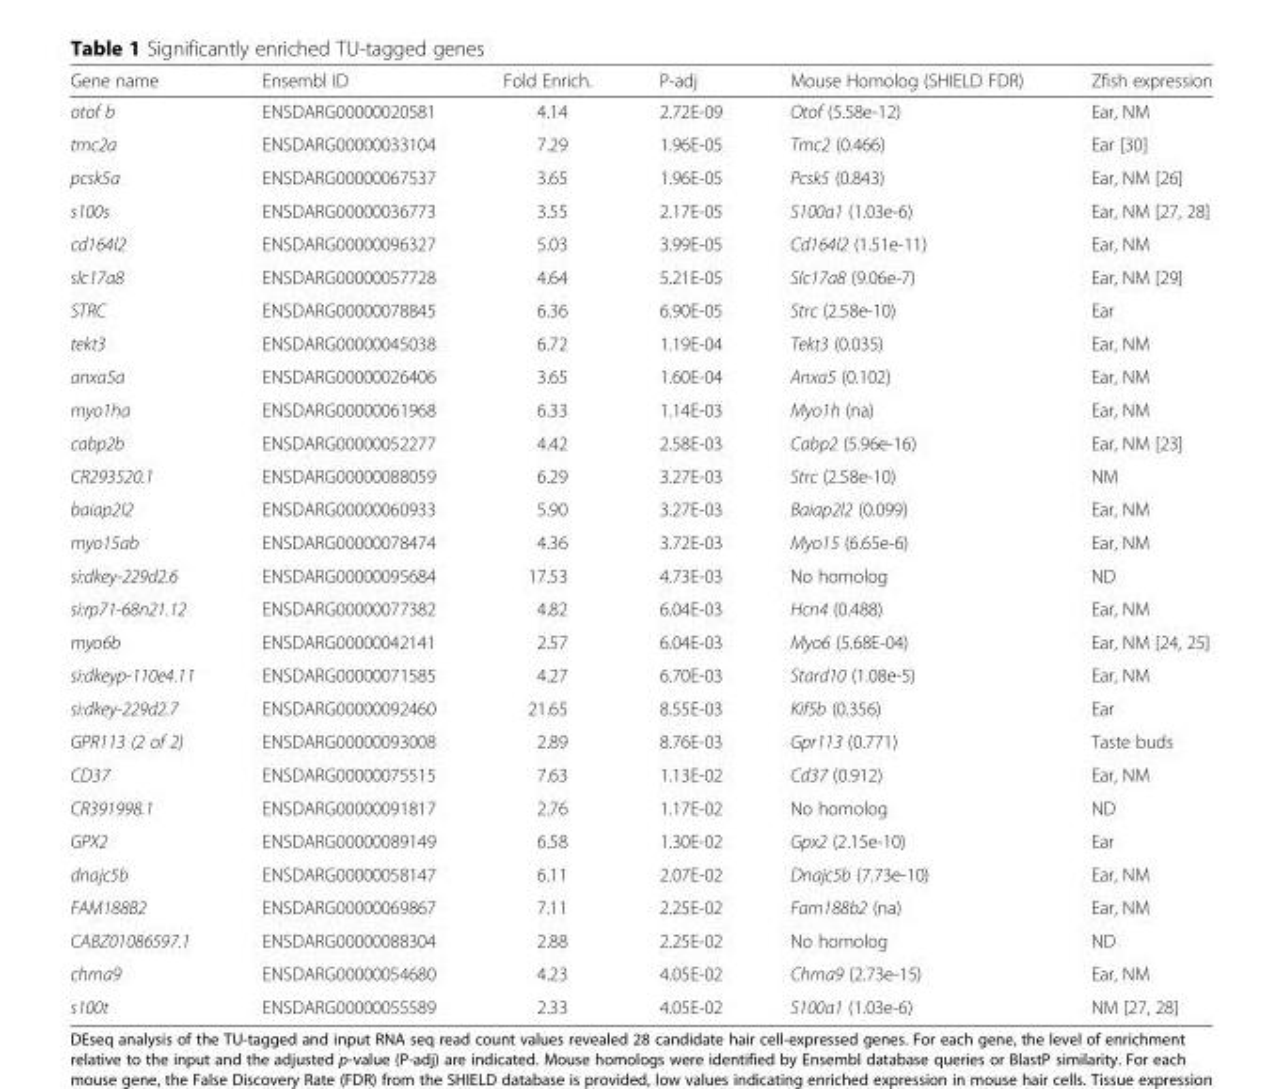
<table><thead><tr><td>Gene name</td><td>Ensembl ID</td><td>Fold Enrich.</td><td>P-adj</td><td>Mouse Homolog (SHIELD FDR)</td><td>Zfish expression</td></tr></thead><tbody><tr><td>otof b</td><td>ENSDARG00000020581</td><td>4.14</td><td>2.72E-09</td><td>Otof (5.58e-12)</td><td>Ear, NM</td></tr><tr><td>tmc2a</td><td>ENSDARG00000033104</td><td>7.29</td><td>1.96E-05</td><td>Tmc2 (0.466)</td><td>Ear [30]</td></tr><tr><td>pcsk5a</td><td>ENSDARG00000067537</td><td>3.65</td><td>1.96E-05</td><td>Pcsk5 (0.843)</td><td>Ear, NM [26]</td></tr><tr><td>s100s</td><td>ENSDARG00000036773</td><td>3.55</td><td>2.17E-05</td><td>S100a1 (1.03e-6)</td><td>Ear, NM [27, 28]</td></tr><tr><td>cd164l2</td><td>ENSDARG00000096327</td><td>5.03</td><td>3.99E-05</td><td>Cd164l2 (1.51e-11)</td><td>Ear, NM</td></tr><tr><td>slc17a8</td><td>ENSDARG00000057728</td><td>4.64</td><td>5.21E-05</td><td>Slc17a8 (9.06e-7)</td><td>Ear, NM [29]</td></tr><tr><td>STRC</td><td>ENSDARG00000078845</td><td>6.36</td><td>6.90E-05</td><td>Strc (2.58e-10)</td><td>Ear</td></tr><tr><td>tekt3</td><td>ENSDARG00000045038</td><td>6.72</td><td>1.19E-04</td><td>Tekt3 (0.035)</td><td>Ear, NM</td></tr><tr><td>anxa5a</td><td>ENSDARG00000026406</td><td>3.65</td><td>1.60E-04</td><td>Anxa5 (0.102)</td><td>Ear, NM</td></tr><tr><td>myo1ha</td><td>ENSDARG00000061968</td><td>6.33</td><td>1.14E-03</td><td>Myo1h (na)</td><td>Ear, NM</td></tr><tr><td>cabp2b</td><td>ENSDARG00000052277</td><td>4.42</td><td>2.58E-03</td><td>Cabp2 (5.96e-16)</td><td>Ear, NM [23]</td></tr><tr><td>CR293520.1</td><td>ENSDARG00000088059</td><td>6.29</td><td>3.27E-03</td><td>Strc (2.58e-10)</td><td>NM</td></tr><tr><td>baiap2l2</td><td>ENSDARG00000060933</td><td>5.90</td><td>3.27E-03</td><td>Baiap2l2 (0.099)</td><td>Ear, NM</td></tr><tr><td>myo15ab</td><td>ENSDARG00000078474</td><td>4.36</td><td>3.72E-03</td><td>Myo15 (6.65e-6)</td><td>Ear, NM</td></tr><tr><td>si:dkey-229d2.6</td><td>ENSDARG00000095684</td><td>17.53</td><td>4.73E-03</td><td>No homolog</td><td>ND</td></tr><tr><td>si:rp71-68n21.12</td><td>ENSDARG00000077382</td><td>4.82</td><td>6.04E-03</td><td>Hcn4 (0.488)</td><td>Ear, NM</td></tr><tr><td>myo6b</td><td>ENSDARG00000042141</td><td>2.57</td><td>6.04E-03</td><td>Myo6 (5.68E-04)</td><td>Ear, NM [24, 25]</td></tr><tr><td>si:dkeyp-110e4.11</td><td>ENSDARG00000071585</td><td>4.27</td><td>6.70E-03</td><td>Stard10 (1.08e-5)</td><td>Ear, NM</td></tr><tr><td>si:dkey-229d2.7</td><td>ENSDARG00000092460</td><td>21.65</td><td>8.55E-03</td><td>Kif5b (0.356)</td><td>Ear</td></tr><tr><td>GPR113 (2 of 2)</td><td>ENSDARG00000093008</td><td>2.89</td><td>8.76E-03</td><td>Gpr113 (0.771)</td><td>Taste buds</td></tr><tr><td>CD37</td><td>ENSDARG00000075515</td><td>7.63</td><td>1.13E-02</td><td>Cd37 (0.912)</td><td>Ear, NM</td></tr><tr><td>CR391998.1</td><td>ENSDARG00000091817</td><td>2.76</td><td>1.17E-02</td><td>No homolog</td><td>ND</td></tr><tr><td>GPX2</td><td>ENSDARG00000089149</td><td>6.58</td><td>1.30E-02</td><td>Gpx2 (2.15e-10)</td><td>Ear</td></tr><tr><td>dnajc5b</td><td>ENSDARG00000058147</td><td>6.11</td><td>2.07E-02</td><td>Dnajc5b (7.73e-10)</td><td>Ear, NM</td></tr><tr><td>FAM188B2</td><td>ENSDARG00000069867</td><td>7.11</td><td>2.25E-02</td><td>Fam188b2 (na)</td><td>Ear, NM</td></tr><tr><td>CABZ01086597.1</td><td>ENSDARG00000088304</td><td>2.88</td><td>2.25E-02</td><td>No homolog</td><td>ND</td></tr><tr><td>chrna9</td><td>ENSDARG00000054680</td><td>4.23</td><td>4.05E-02</td><td>Chrna9 (2.73e-15)</td><td>Ear, NM</td></tr><tr><td>s100t</td><td>ENSDARG00000055589</td><td>2.33</td><td>4.05E-02</td><td>S100a1 (1.03e-6)</td><td>NM [27, 28]</td></tr></tbody></table>